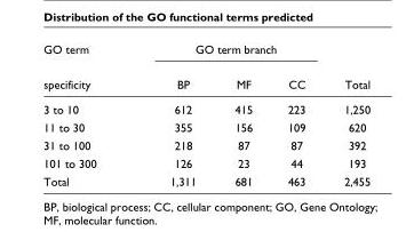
<table><thead><tr><td rowspan="2">GO term specificity</td><td colspan="3">GO term branch</td><td rowspan="2">Total</td></tr><tr><td>BP</td><td>MF</td><td>CC</td></tr></thead><tbody><tr><td>3 to 10</td><td>612</td><td>415</td><td>223</td><td>1,250</td></tr><tr><td>11 to 30</td><td>355</td><td>156</td><td>109</td><td>620</td></tr><tr><td>31 to 100</td><td>218</td><td>87</td><td>87</td><td>392</td></tr><tr><td>101 to 300</td><td>126</td><td>23</td><td>44</td><td>193</td></tr><tr><td>Total</td><td>1,311</td><td>681</td><td>463</td><td>2,455</td></tr></tbody></table>